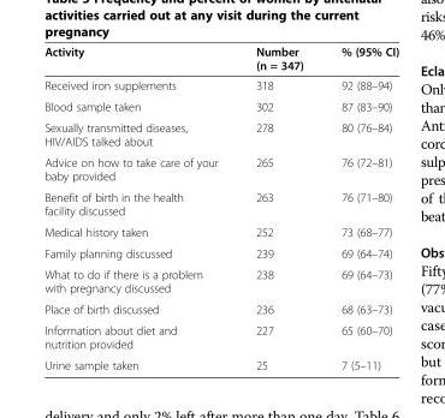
<table><thead><tr><td>Activity</td><td>Number (n = 347)</td><td>% (95% CI)</td></tr></thead><tbody><tr><td>Received iron supplements</td><td>318</td><td>92 (88–94)</td></tr><tr><td>Blood sample taken</td><td>302</td><td>87 (83–90)</td></tr><tr><td>Sexually transmitted diseases, HIV/AIDS talked about</td><td>278</td><td>80 (76–84)</td></tr><tr><td>Advice on how to take care of your baby provided</td><td>265</td><td>76 (72–81)</td></tr><tr><td>Benefit of birth in the health facility discussed</td><td>263</td><td>76 (71–80)</td></tr><tr><td>Medical history taken</td><td>252</td><td>73 (68–77)</td></tr><tr><td>Family planning discussed</td><td>239</td><td>69 (64–74)</td></tr><tr><td>What to do if there is a problem with pregnancy discussed</td><td>238</td><td>69 (64–73)</td></tr><tr><td>Place of birth discussed</td><td>236</td><td>68 (63–73)</td></tr><tr><td>Information about diet and nutrition provided</td><td>227</td><td>65 (60–70)</td></tr><tr><td>Urine sample taken</td><td>25</td><td>7 (5–11)</td></tr></tbody></table>